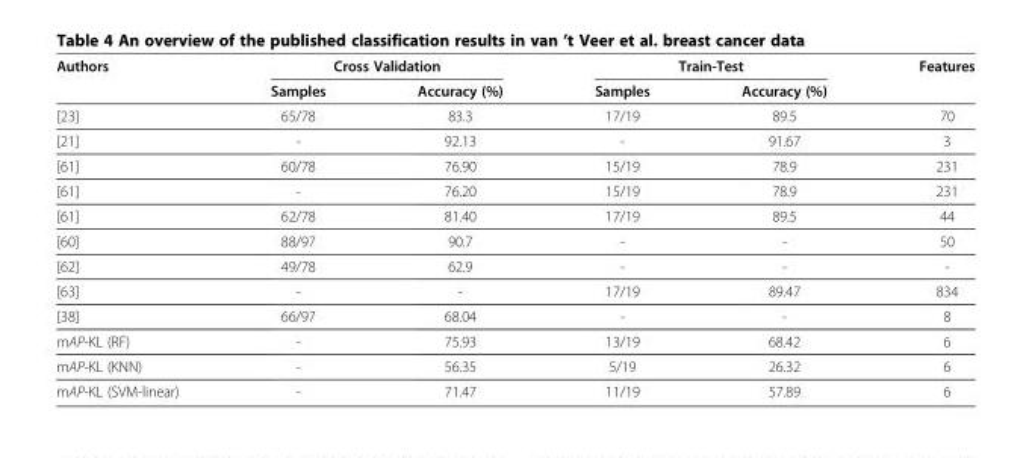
<table><thead><tr><td rowspan="2">Authors</td><td colspan="2">Cross Validation</td><td colspan="2">Train-Test</td><td rowspan="2">Features</td></tr><tr><td>Samples</td><td>Accuracy (%)</td><td>Samples</td><td>Accuracy (%)</td></tr></thead><tbody><tr><td>[23]</td><td>65/78</td><td>83.3</td><td>17/19</td><td>89.5</td><td>70</td></tr><tr><td>[21]</td><td>-</td><td>92.13</td><td>-</td><td>91.67</td><td>3</td></tr><tr><td>[61]</td><td>60/78</td><td>76.90</td><td>15/19</td><td>78.9</td><td>231</td></tr><tr><td>[61]</td><td>-</td><td>76.20</td><td>15/19</td><td>78.9</td><td>231</td></tr><tr><td>[61]</td><td>62/78</td><td>81.40</td><td>17/19</td><td>89.5</td><td>44</td></tr><tr><td>[60]</td><td>88/97</td><td>90.7</td><td>-</td><td>-</td><td>50</td></tr><tr><td>[62]</td><td>49/78</td><td>62.9</td><td>-</td><td>-</td><td>-</td></tr><tr><td>[63]</td><td>-</td><td>-</td><td>17/19</td><td>89.47</td><td>834</td></tr><tr><td>[38]</td><td>66/97</td><td>68.04</td><td>-</td><td>-</td><td>8</td></tr><tr><td>mAP-KL (RF)</td><td>-</td><td>75.93</td><td>13/19</td><td>68.42</td><td>6</td></tr><tr><td>mAP-KL (KNN)</td><td>-</td><td>56.35</td><td>5/19</td><td>26.32</td><td>6</td></tr><tr><td>mAP-KL (SVM-linear)</td><td>-</td><td>71.47</td><td>11/19</td><td>57.89</td><td>6</td></tr></tbody></table>